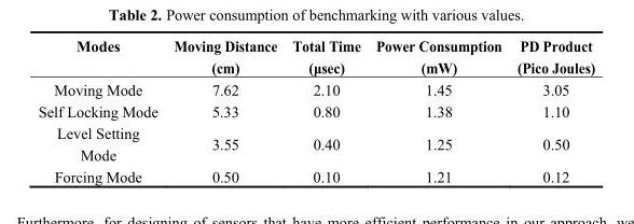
<table><thead><tr><td>Modes</td><td>Moving Distance (cm)</td><td>Total Time (μsec)</td><td>Power Consumption (mW)</td><td>PD Product (Pico Joules)</td></tr></thead><tbody><tr><td>Moving Mode</td><td>7.62</td><td>2.10</td><td>1.45</td><td>3.05</td></tr><tr><td>Self Locking Mode</td><td>5.33</td><td>0.80</td><td>1.38</td><td>1.10</td></tr><tr><td>Level Setting Mode</td><td>3.55</td><td>0.40</td><td>1.25</td><td>0.50</td></tr><tr><td>Forcing Mode</td><td>0.50</td><td>0.10</td><td>1.21</td><td>0.12</td></tr></tbody></table>